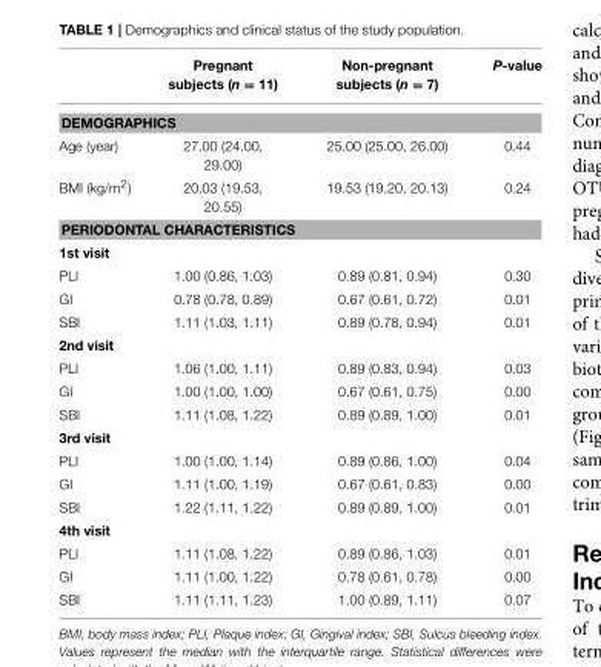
<table><thead><tr><td></td><td>Pregnant subjects (n = 11)</td><td>Non-pregnant subjects (n = 7)</td><td>P-value</td></tr></thead><tbody><tr><td colspan="4">DEMOGRAPHICS</td></tr><tr><td>Age (year)</td><td>27.00 (24.00, 29.00)</td><td>25.00 (25.00, 26.00)</td><td>0.44</td></tr><tr><td>BMI (kg/m<sup>2</sup>)</td><td>20.03 (19.53, 20.55)</td><td>19.53 (19.20, 20.13)</td><td>0.24</td></tr><tr><td colspan="4">PERIODONTAL CHARACTERISTICS</td></tr><tr><td colspan="4">1st visit</td></tr><tr><td>PLI</td><td>1.00 (0.86, 1.03)</td><td>0.89 (0.81, 0.94)</td><td>0.30</td></tr><tr><td>GI</td><td>0.78 (0.78, 0.89)</td><td>0.67 (0.61, 0.72)</td><td>0.01</td></tr><tr><td>SBI</td><td>1.11 (1.03, 1.11)</td><td>0.89 (0.78, 0.94)</td><td>0.01</td></tr><tr><td colspan="4">2nd visit</td></tr><tr><td>PLI</td><td>1.06 (1.00, 1.11)</td><td>0.89 (0.83, 0.94)</td><td>0.03</td></tr><tr><td>GI</td><td>1.00 (1.00, 1.00)</td><td>0.67 (0.61, 0.75)</td><td>0.00</td></tr><tr><td>SBI</td><td>1.11 (1.08, 1.22)</td><td>0.89 (0.89, 1.00)</td><td>0.01</td></tr><tr><td colspan="4">3rd visit</td></tr><tr><td>PLI</td><td>1.00 (1.00, 1.14)</td><td>0.89 (0.86, 1.00)</td><td>0.04</td></tr><tr><td>GI</td><td>1.11 (1.00, 1.19)</td><td>0.67 (0.61, 0.83)</td><td>0.00</td></tr><tr><td>SBI</td><td>1.22 (1.11, 1.22)</td><td>0.89 (0.89, 1.00)</td><td>0.01</td></tr><tr><td colspan="4">4th visit</td></tr><tr><td>PLI</td><td>1.11 (1.08, 1.22)</td><td>0.89 (0.86, 1.03)</td><td>0.01</td></tr><tr><td>GI</td><td>1.11 (1.00, 1.22)</td><td>0.78 (0.61, 0.78)</td><td>0.00</td></tr><tr><td>SBI</td><td>1.11 (1.11, 1.23)</td><td>1.00 (0.89, 1.11)</td><td>0.07</td></tr></tbody></table>